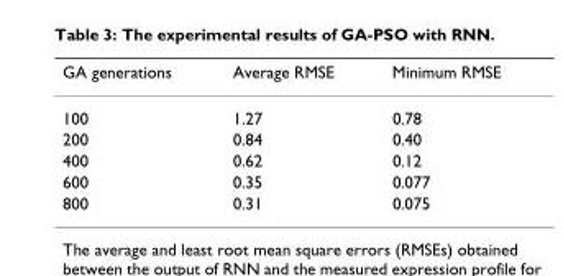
<table><thead><tr><td>GA generations</td><td>Average RMSE</td><td>Minimum RMSE</td></tr></thead><tbody><tr><td>100</td><td>1.27</td><td>0.78</td></tr><tr><td>200</td><td>0.84</td><td>0.40</td></tr><tr><td>400</td><td>0.62</td><td>0.12</td></tr><tr><td>600</td><td>0.35</td><td>0.077</td></tr><tr><td>800</td><td>0.31</td><td>0.075</td></tr></tbody></table>